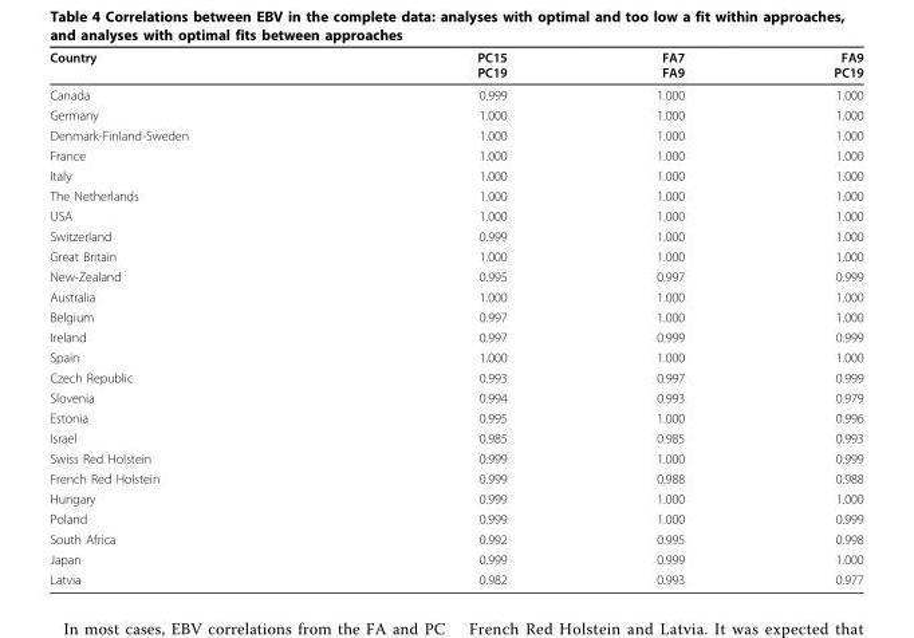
<table><thead><tr><td>Country</td><td>PC15 PC19</td><td>FA7 FA9</td><td>FA9 PC19</td></tr></thead><tbody><tr><td>Canada</td><td>0.999</td><td>1.000</td><td>1.000</td></tr><tr><td>Germany</td><td>1.000</td><td>1.000</td><td>1.000</td></tr><tr><td>Denmark-Finland-Sweden</td><td>1.000</td><td>1.000</td><td>1.000</td></tr><tr><td>France</td><td>1.000</td><td>1.000</td><td>1.000</td></tr><tr><td>Italy</td><td>1.000</td><td>1.000</td><td>1.000</td></tr><tr><td>The Netherlands</td><td>1.000</td><td>1.000</td><td>1.000</td></tr><tr><td>USA</td><td>1.000</td><td>1.000</td><td>1.000</td></tr><tr><td>Switzerland</td><td>0.999</td><td>1.000</td><td>1.000</td></tr><tr><td>Great Britain</td><td>1.000</td><td>1.000</td><td>1.000</td></tr><tr><td>New-Zealand</td><td>0.995</td><td>0.997</td><td>0.999</td></tr><tr><td>Australia</td><td>1.000</td><td>1.000</td><td>1.000</td></tr><tr><td>Belgium</td><td>0.997</td><td>1.000</td><td>1.000</td></tr><tr><td>Ireland</td><td>0.997</td><td>0.999</td><td>0.999</td></tr><tr><td>Spain</td><td>1.000</td><td>1.000</td><td>1.000</td></tr><tr><td>Czech Republic</td><td>0.993</td><td>0.997</td><td>0.999</td></tr><tr><td>Slovenia</td><td>0.994</td><td>0.993</td><td>0.979</td></tr><tr><td>Estonia</td><td>0.995</td><td>1.000</td><td>0.996</td></tr><tr><td>Israel</td><td>0.985</td><td>0.985</td><td>0.993</td></tr><tr><td>Swiss Red Holstein</td><td>0.999</td><td>1.000</td><td>0.999</td></tr><tr><td>French Red Holstein</td><td>0.999</td><td>0.988</td><td>0.988</td></tr><tr><td>Hungary</td><td>0.999</td><td>1.000</td><td>1.000</td></tr><tr><td>Poland</td><td>0.999</td><td>1.000</td><td>0.999</td></tr><tr><td>South Africa</td><td>0.992</td><td>0.995</td><td>0.998</td></tr><tr><td>Japan</td><td>0.999</td><td>0.999</td><td>1.000</td></tr><tr><td>Latvia</td><td>0.982</td><td>0.993</td><td>0.977</td></tr></tbody></table>